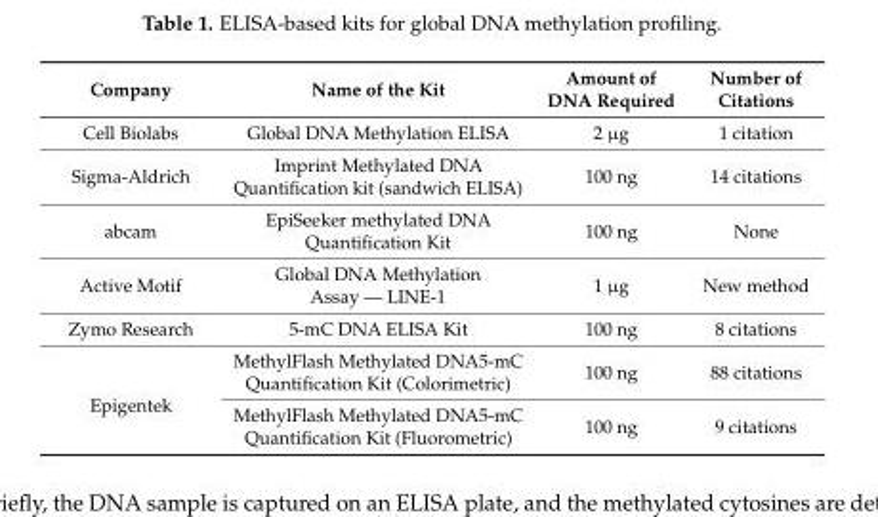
<table><thead><tr><td>Company</td><td>Name of the Kit</td><td>Amount of DNA Required</td><td>Number of Citations</td></tr></thead><tbody><tr><td>Cell Biolabs</td><td>Global DNA Methylation ELISA</td><td>2 µg</td><td>1 citation</td></tr><tr><td>Sigma-Aldrich</td><td>Imprint Methylated DNA Quantification kit (sandwich ELISA)</td><td>100 ng</td><td>14 citations</td></tr><tr><td>abcam</td><td>EpiSeeker methylated DNA Quantification Kit</td><td>100 ng</td><td>None</td></tr><tr><td>Active Motif</td><td>Global DNA Methylation Assay — LINE-1</td><td>1 µg</td><td>New method</td></tr><tr><td>Zymo Research</td><td>5-mC DNA ELISA Kit</td><td>100 ng</td><td>8 citations</td></tr><tr><td rowspan="2">Epigentek</td><td>MethylFlash Methylated DNA5-mC Quantification Kit (Colorimetric)</td><td>100 ng</td><td>88 citations</td></tr><tr><td>MethylFlash Methylated DNA5-mC Quantification Kit (Fluorometric)</td><td>100 ng</td><td>9 citations</td></tr></tbody></table>